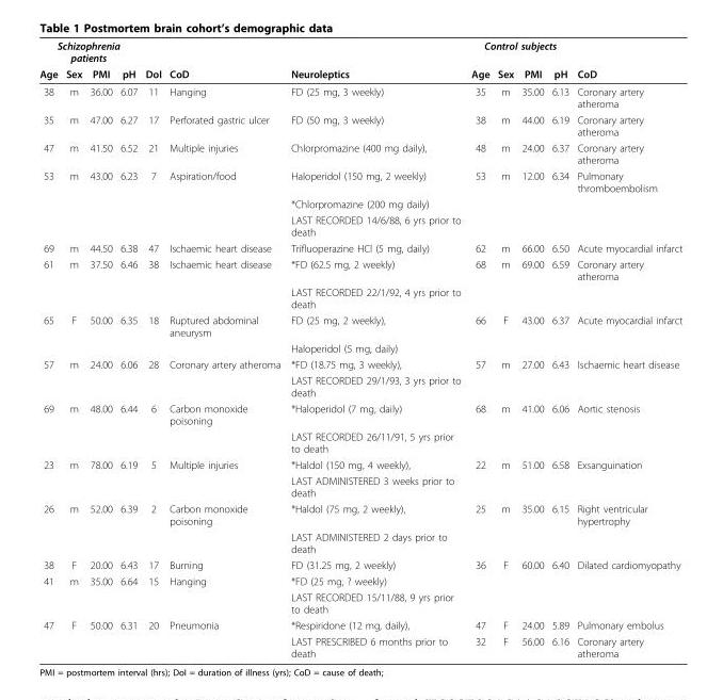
<table><thead><tr><td colspan="4">Schizophrenia patients</td><td rowspan="2">DoI</td><td rowspan="2">CoD</td><td rowspan="2">Neuroleptics</td><td colspan="4">Control subjects</td><td rowspan="2">CoD</td></tr><tr><td>Age</td><td>Sex</td><td>PMI</td><td>pH</td><td>Age</td><td>Sex</td><td>PMI</td><td>pH</td></tr></thead><tbody><tr><td>38</td><td>m</td><td>36.00</td><td>6.07</td><td>11</td><td>Hanging</td><td>FD (25 mg, 3 weekly)</td><td>35</td><td>m</td><td>35.00</td><td>6.13</td><td>Coronary artery atheroma</td></tr><tr><td>35</td><td>m</td><td>47.00</td><td>6.27</td><td>17</td><td>Perforated gastric ulcer</td><td>FD (50 mg, 3 weekly)</td><td>38</td><td>m</td><td>44.00</td><td>6.19</td><td>Coronary artery atheroma</td></tr><tr><td>47</td><td>m</td><td>41.50</td><td>6.52</td><td>21</td><td>Multiple injuries</td><td>Chlorpromazine (400 mg daily),</td><td>48</td><td>m</td><td>24.00</td><td>6.37</td><td>Coronary artery atheroma</td></tr><tr><td rowspan="3">53</td><td>m</td><td>43.00</td><td>6.23</td><td>7</td><td>Aspiration/food</td><td>Haloperidol (150 mg, 2 weekly)</td><td>53</td><td>m</td><td>12.00</td><td>6.34</td><td>Pulmonary thromboembolism</td></tr><tr><td></td><td></td><td></td><td></td><td></td><td>*Chlorpromazine (200 mg daily)</td><td></td><td></td><td></td><td></td><td></td></tr><tr><td></td><td></td><td></td><td></td><td></td><td>LAST RECORDED 14/6/88, 6 yrs prior to death</td><td></td><td></td><td></td><td></td><td></td></tr><tr><td>69</td><td>m</td><td>44.50</td><td>6.38</td><td>47</td><td>Ischaemic heart disease</td><td>Trifluoperazine HCl (5 mg, daily)</td><td>62</td><td>m</td><td>66.00</td><td>6.50</td><td>Acute myocardial infarct</td></tr><tr><td rowspan="2">61</td><td>m</td><td>37.50</td><td>6.46</td><td>38</td><td>Ischaemic heart disease</td><td>*FD (62.5 mg, 2 weekly)</td><td>68</td><td>m</td><td>69.00</td><td>6.59</td><td>Coronary artery atheroma</td></tr><tr><td></td><td></td><td></td><td></td><td></td><td>LAST RECORDED 22/1/92, 4 yrs prior to death</td><td></td><td></td><td></td><td></td><td></td></tr><tr><td rowspan="2">65</td><td>F</td><td>50.00</td><td>6.35</td><td>18</td><td>Ruptured abdominal aneurysm</td><td>FD (25 mg, 2 weekly),</td><td>66</td><td>F</td><td>43.00</td><td>6.37</td><td>Acute myocardial infarct</td></tr><tr><td></td><td></td><td></td><td></td><td></td><td>Haloperidol (5 mg, daily)</td><td></td><td></td><td></td><td></td><td></td></tr><tr><td rowspan="2">57</td><td>m</td><td>24.00</td><td>6.06</td><td>28</td><td>Coronary artery atheroma</td><td>*FD (18.75 mg, 3 weekly),</td><td>57</td><td>m</td><td>27.00</td><td>6.43</td><td>Ischaemic heart disease</td></tr><tr><td></td><td></td><td></td><td></td><td></td><td>LAST RECORDED 29/1/93, 3 yrs prior to death</td><td></td><td></td><td></td><td></td><td></td></tr><tr><td rowspan="2">69</td><td>m</td><td>48.00</td><td>6.44</td><td>6</td><td>Carbon monoxide poisoning</td><td>*Haloperidol (7 mg, daily)</td><td>68</td><td>m</td><td>41.00</td><td>6.06</td><td>Aortic stenosis</td></tr><tr><td></td><td></td><td></td><td></td><td></td><td>LAST RECORDED 26/11/91, 5 yrs prior to death</td><td></td><td></td><td></td><td></td><td></td></tr><tr><td rowspan="2">23</td><td>m</td><td>78.00</td><td>6.19</td><td>5</td><td>Multiple injuries</td><td>*Haldol (150 mg, 4 weekly),</td><td>22</td><td>m</td><td>51.00</td><td>6.58</td><td>Exsanguination</td></tr><tr><td></td><td></td><td></td><td></td><td></td><td>LAST ADMINISTERED 3 weeks prior to death</td><td></td><td></td><td></td><td></td><td></td></tr><tr><td rowspan="2">26</td><td>m</td><td>52.00</td><td>6.39</td><td>2</td><td>Carbon monoxide poisoning</td><td>*Haldol (75 mg, 2 weekly),</td><td>25</td><td>m</td><td>35.00</td><td>6.15</td><td>Right ventricular hypertrophy</td></tr><tr><td></td><td></td><td></td><td></td><td></td><td>LAST ADMINISTERED 2 days prior to death</td><td></td><td></td><td></td><td></td><td></td></tr><tr><td>38</td><td>F</td><td>20.00</td><td>6.43</td><td>17</td><td>Burning</td><td>FD (31.25 mg, 2 weekly)</td><td>36</td><td>F</td><td>60.00</td><td>6.40</td><td>Dilated cardiomyopathy</td></tr><tr><td rowspan="2">41</td><td>m</td><td>35.00</td><td>6.64</td><td>15</td><td>Hanging</td><td>*FD (25 mg, ? weekly)</td><td></td><td></td><td></td><td></td><td></td></tr><tr><td></td><td></td><td></td><td></td><td></td><td>LAST RECORDED 15/11/88, 9 yrs prior to death</td><td></td><td></td><td></td><td></td><td></td></tr><tr><td rowspan="2">47</td><td>F</td><td>50.00</td><td>6.31</td><td>20</td><td>Pneumonia</td><td>*Respiridone (12 mg, daily),</td><td>47</td><td>F</td><td>24.00</td><td>5.89</td><td>Pulmonary embolus</td></tr><tr><td></td><td></td><td></td><td></td><td></td><td>LAST PRESCRIBED 6 months prior to death</td><td>32</td><td>F</td><td>56.00</td><td>6.16</td><td>Coronary artery atheroma</td></tr></tbody></table>